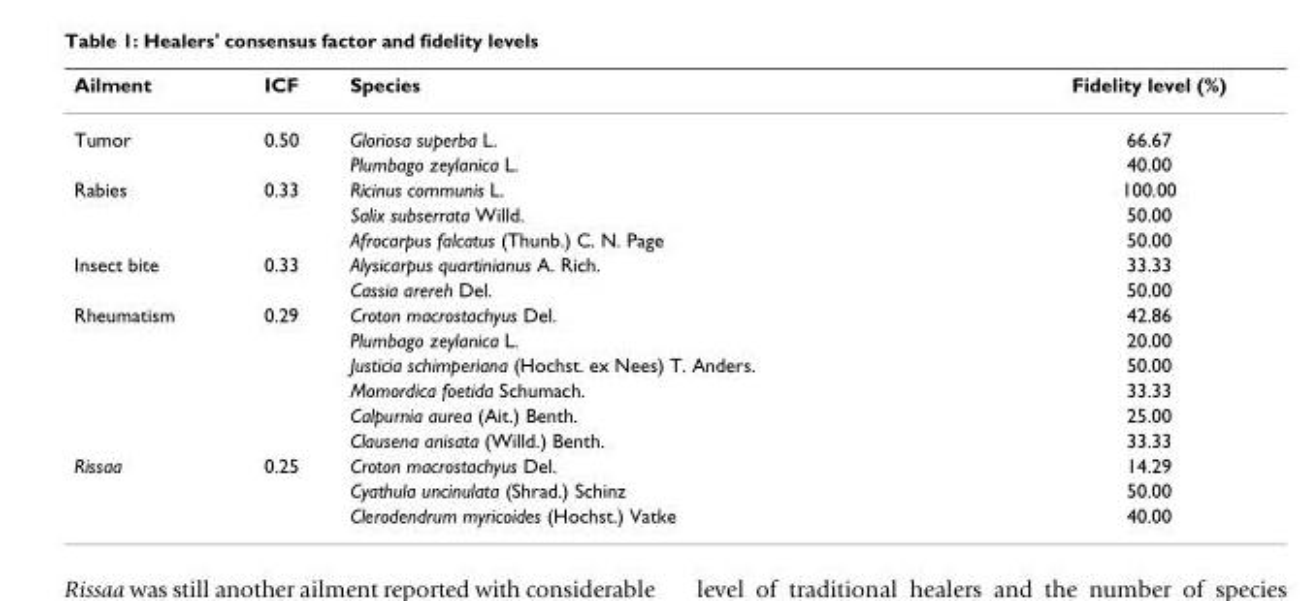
<table><thead><tr><td>Ailment</td><td>ICF</td><td>Species</td><td>Fidelity level (%)</td></tr></thead><tbody><tr><td rowspan="2">Tumor</td><td>0.50</td><td>Gloriosa superba L.</td><td>66.67</td></tr><tr><td></td><td>Plumbago zeylanica L.</td><td>40.00</td></tr><tr><td rowspan="3">Rabies</td><td>0.33</td><td>Ricinus communis L.</td><td>100.00</td></tr><tr><td></td><td>Salix subserrata Willd.</td><td>50.00</td></tr><tr><td></td><td>Afrocarpus falcatus (Thunb.) C. N. Page</td><td>50.00</td></tr><tr><td rowspan="2">Insect bite</td><td>0.33</td><td>Alysicarpus quartinianus A. Rich.</td><td>33.33</td></tr><tr><td></td><td>Cassia arereh Del.</td><td>50.00</td></tr><tr><td rowspan="6">Rheumatism</td><td>0.29</td><td>Croton macrostachyus Del.</td><td>42.86</td></tr><tr><td></td><td>Plumbago zeylanica L.</td><td>20.00</td></tr><tr><td></td><td>Justicia schimperiana (Hochst. ex Nees) T. Anders.</td><td>50.00</td></tr><tr><td></td><td>Momordica foetida Schumach.</td><td>33.33</td></tr><tr><td></td><td>Calpurnia aurea (Ait.) Benth.</td><td>25.00</td></tr><tr><td></td><td>Clausena anisata (Willd.) Benth.</td><td>33.33</td></tr><tr><td rowspan="3">Rissaa</td><td>0.25</td><td>Croton macrostachyus Del.</td><td>14.29</td></tr><tr><td></td><td>Cyathula uncinulata (Shrad.) Schinz</td><td>50.00</td></tr><tr><td></td><td>Clerodendrum myricoides (Hochst.) Vatke</td><td>40.00</td></tr></tbody></table>